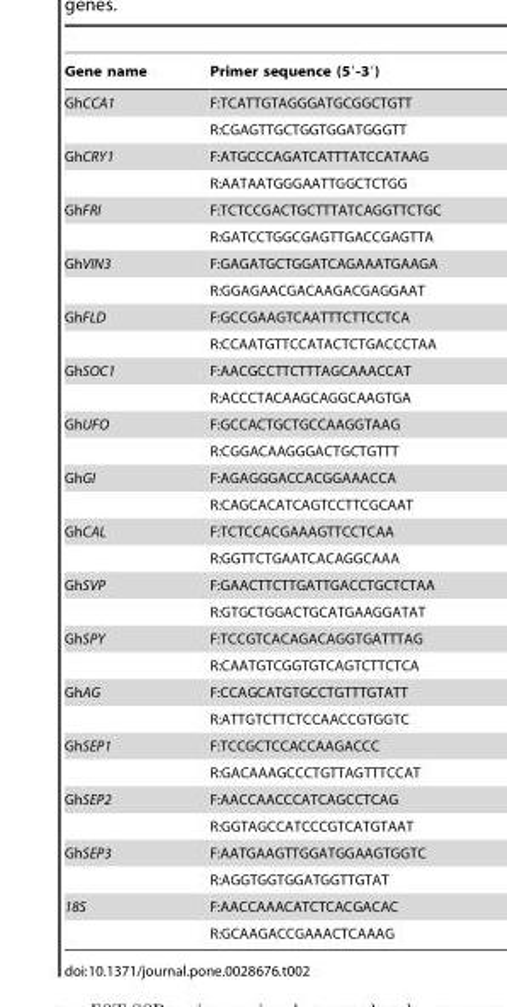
<table><thead><tr><td>Gene name</td><td>Primer sequence (5′-3′)</td></tr></thead><tbody><tr><td rowspan="2">GhCCA1</td><td>F:TCATTGTAGGGATGCGGCTGTT</td></tr><tr><td>R:CGAGTTGCTGGTGGATGGGTT</td></tr><tr><td rowspan="2">GhCRY1</td><td>F:ATGCCCAGATCATTTATCCATAAG</td></tr><tr><td>R:AATAATGGGAATTGGCTCTGG</td></tr><tr><td rowspan="2">GhFRI</td><td>F:TCTCCGACTGCTTTATCAGGTTCTGC</td></tr><tr><td>R:GATCCTGGCGAGTTGACCGAGTTA</td></tr><tr><td rowspan="2">GhVIN3</td><td>F:GAGATGCTGGATCAGAAATGAAGA</td></tr><tr><td>R:GGAGAACGACAAGACGAGGAAT</td></tr><tr><td rowspan="2">GhFLD</td><td>F:GCCGAAGTCAATTTCTTCCTCA</td></tr><tr><td>R:CCAATGTTCCATACTCTGACCCTAA</td></tr><tr><td rowspan="2">GhSOC1</td><td>F:AACGCCTTCTTTAGCAAACCAT</td></tr><tr><td>R:ACCCTACAAGCAGGCAAGTGA</td></tr><tr><td rowspan="2">GhUFO</td><td>F:GCCACTGCTGCCAAGGTAAG</td></tr><tr><td>R:CGGACAAGGGACTGCTGTTT</td></tr><tr><td rowspan="2">GhGI</td><td>F:AGAGGGACCACGGAAACCA</td></tr><tr><td>R:CAGCACATCAGTCCTTCGCAAT</td></tr><tr><td rowspan="2">GhCAL</td><td>F:TCTCCACGAAAGTTCCTCAA</td></tr><tr><td>R:GGTTCTGAATCACAGGCAAA</td></tr><tr><td rowspan="2">GhSVP</td><td>F:GAACTTCTTGATTGACCTGCTCTAA</td></tr><tr><td>R:GTGCTGGACTGCATGAAGGATAT</td></tr><tr><td rowspan="2">GhSPY</td><td>F:TCCGTCACAGACAGGTGATTTAG</td></tr><tr><td>R:CAATGTCGGTGTCAGTCTTCTCA</td></tr><tr><td rowspan="2">GhAG</td><td>F:CCAGCATGTGCCTGTTTGTATT</td></tr><tr><td>R:ATTGTCTTCTCCAACCGTGGTC</td></tr><tr><td rowspan="2">GhSEP1</td><td>F:TCCGCTCCACCAAGACCC</td></tr><tr><td>R:GACAAAGCCCTGTTAGTTTCCAT</td></tr><tr><td rowspan="2">GhSEP2</td><td>F:AACCAACCCATCAGCCTCAG</td></tr><tr><td>R:GGTAGCCATCCCGTCATGTAAT</td></tr><tr><td rowspan="2">GhSEP3</td><td>F:AATGAAGTTGGATGGAAGTGGTC</td></tr><tr><td>R:AGGTGGTGGATGGTTGTAT</td></tr><tr><td rowspan="2">18S</td><td>F:AACCAAACATCTCACGACAC</td></tr><tr><td>R:GCAAGACCGAAACTCAAAG</td></tr></tbody></table>